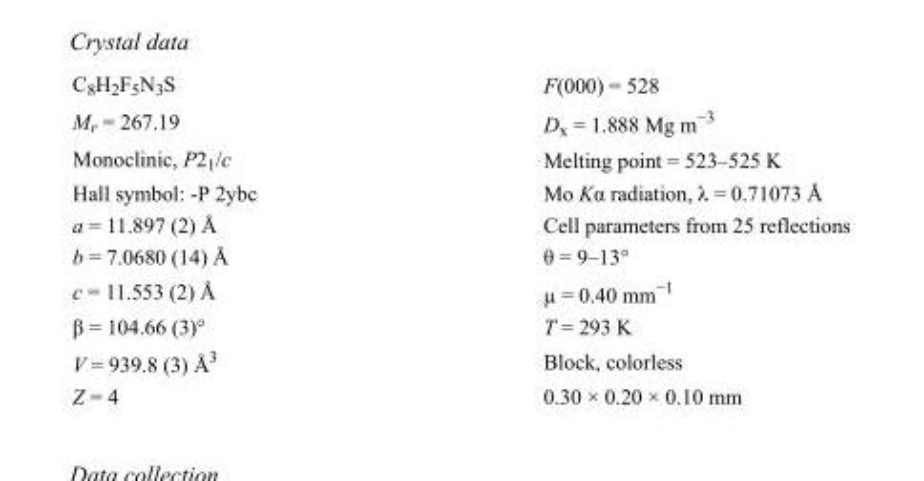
<table><tbody><tr><td>C<sub>8</sub>H<sub>2</sub>F<sub>5</sub>N<sub>3</sub>S</td><td>F(000) = 528</td></tr><tr><td>M<sub>r</sub> = 267.19</td><td>D<sub>x</sub> = 1.888 Mg m<sup>−3</sup></td></tr><tr><td>Monoclinic, P2<sub>1</sub>/c</td><td>Melting point = 523–525 K</td></tr><tr><td>Hall symbol: -P 2ybc</td><td>Mo Kα radiation, λ = 0.71073 Å</td></tr><tr><td>a = 11.897 (2) Å</td><td>Cell parameters from 25 reflections</td></tr><tr><td>b = 7.0680 (14) Å</td><td>θ = 9–13°</td></tr><tr><td>c = 11.553 (2) Å</td><td>µ = 0.40 mm<sup>−1</sup></td></tr><tr><td>β = 104.66 (3)°</td><td>T = 293 K</td></tr><tr><td>V = 939.8 (3) Å<sup>3</sup></td><td>Block, colorless</td></tr><tr><td>Z = 4</td><td>0.30 × 0.20 × 0.10 mm</td></tr></tbody></table>